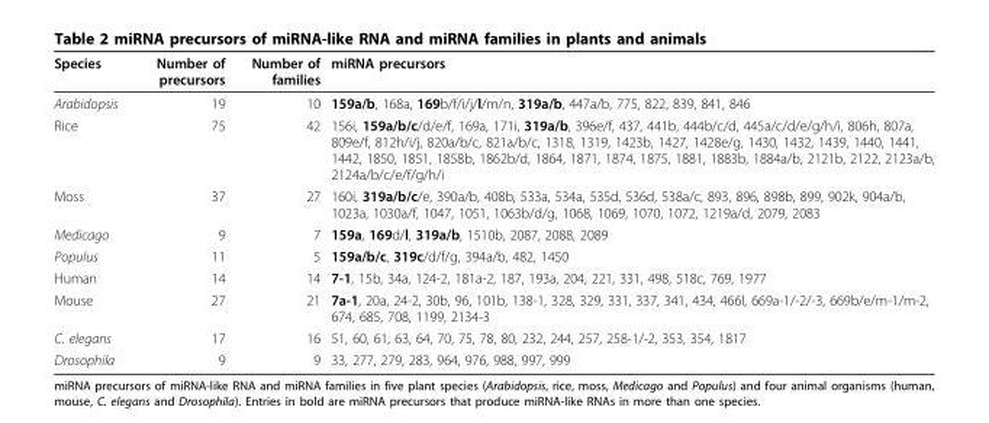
<table><thead><tr><td>Species</td><td>Number of precursors</td><td>Number of families</td><td>miRNA precursors</td></tr></thead><tbody><tr><td>Arabidopsis</td><td>19</td><td>10</td><td>159a/b, 168a, 169b/f/i/j/l/m/n, 319a/b, 447a/b, 775, 822, 839, 841, 846</td></tr><tr><td>Rice</td><td>75</td><td>42</td><td>156i, 159a/b/c/d/e/f, 169a, 171i, 319a/b, 396e/f, 437, 441b, 444b/c/d, 445a/c/d/e/g/h/i, 806h, 807a, 809e/f, 812h/i/j, 820a/b/c, 821a/b/c, 1318, 1319, 1423b, 1427, 1428e/g, 1430, 1432, 1439, 1440, 1441, 1442, 1850, 1851, 1858b, 1862b/d, 1864, 1871, 1874, 1875, 1881, 1883b, 1884a/b, 2121b, 2122, 2123a/b, 2124a/b/c/e/f/g/h/i</td></tr><tr><td>Moss</td><td>37</td><td>27</td><td>160i, 319a/b/c/e, 390a/b, 408b, 533a, 534a, 535d, 536d, 538a/c, 893, 896, 898b, 899, 902k, 904a/b, 1023a, 1030a/f, 1047, 1051, 1063b/d/g, 1068, 1069, 1070, 1072, 1219a/d, 2079, 2083</td></tr><tr><td>Medicago</td><td>9</td><td>7</td><td>159a, 169d/l, 319a/b, 1510b, 2087, 2088, 2089</td></tr><tr><td>Populus</td><td>11</td><td>5</td><td>159a/b/c, 319c/d/f/g, 394a/b, 482, 1450</td></tr><tr><td>Human</td><td>14</td><td>14</td><td>7-1, 15b, 34a, 124-2, 181a-2, 187, 193a, 204, 221, 331, 498, 518c, 769, 1977</td></tr><tr><td>Mouse</td><td>27</td><td>21</td><td>7a-1, 20a, 24-2, 30b, 96, 101b, 138-1, 328, 329, 331, 337, 341, 434, 466l, 669a-1/-2/-3, 669b/e/m-1/m-2, 674, 685, 708, 1199, 2134-3</td></tr><tr><td>C. elegans</td><td>17</td><td>16</td><td>51, 60, 61, 63, 64, 70, 75, 78, 80, 232, 244, 257, 258-1/-2, 353, 354, 1817</td></tr><tr><td>Drosophila</td><td>9</td><td>9</td><td>33, 277, 279, 283, 964, 976, 988, 997, 999</td></tr></tbody></table>